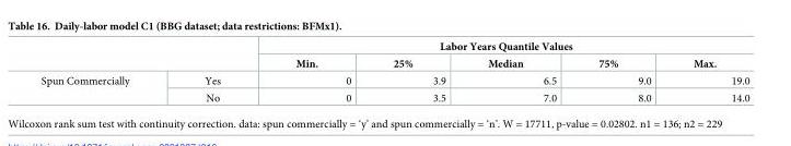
<table><thead><tr><td rowspan="2"></td><td rowspan="2"></td><td colspan="5">Labor Years Quantile Values</td></tr><tr><td>Min.</td><td>25%</td><td>Median</td><td>75%</td><td>Max.</td></tr></thead><tbody><tr><td rowspan="2">Spun Commercially</td><td>Yes</td><td>0</td><td>3.9</td><td>6.5</td><td>9.0</td><td>19.0</td></tr><tr><td>No</td><td>0</td><td>3.5</td><td>7.0</td><td>8.0</td><td>14.0</td></tr></tbody></table>